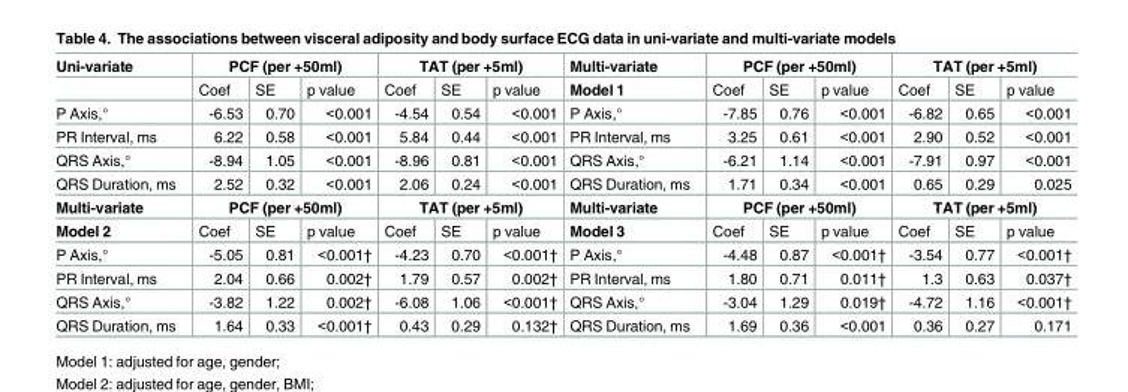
<table><tbody><tr><td rowspan="2">Uni-variate</td><td colspan="3">PCF (per +50ml)</td><td colspan="3">TAT (per +5ml)</td><td>Multi-variate</td><td colspan="3">PCF (per +50ml)</td><td colspan="3">TAT (per +5ml)</td></tr><tr><td>Coef</td><td>SE</td><td>p value</td><td>Coef</td><td>SE</td><td>p value</td><td>Model 1</td><td>Coef</td><td>SE</td><td>p value</td><td>Coef</td><td>SE</td><td>p value</td></tr><tr><td>P Axis,°</td><td>-6.53</td><td>0.70</td><td>&lt;0.001</td><td>-4.54</td><td>0.54</td><td>&lt;0.001</td><td>P Axis,°</td><td>-7.85</td><td>0.76</td><td>&lt;0.001</td><td>-6.82</td><td>0.65</td><td>&lt;0.001</td></tr><tr><td>PR Interval, ms</td><td>6.22</td><td>0.58</td><td>&lt;0.001</td><td>5.84</td><td>0.44</td><td>&lt;0.001</td><td>PR Interval, ms</td><td>3.25</td><td>0.61</td><td>&lt;0.001</td><td>2.90</td><td>0.52</td><td>&lt;0.001</td></tr><tr><td>QRS Axis,°</td><td>-8.94</td><td>1.05</td><td>&lt;0.001</td><td>-8.96</td><td>0.81</td><td>&lt;0.001</td><td>QRS Axis,°</td><td>-6.21</td><td>1.14</td><td>&lt;0.001</td><td>-7.91</td><td>0.97</td><td>&lt;0.001</td></tr><tr><td>QRS Duration, ms</td><td>2.52</td><td>0.32</td><td>&lt;0.001</td><td>2.06</td><td>0.24</td><td>&lt;0.001</td><td>QRS Duration, ms</td><td>1.71</td><td>0.34</td><td>&lt;0.001</td><td>0.65</td><td>0.29</td><td>0.025</td></tr><tr><td>Multi-variate</td><td colspan="3">PCF (per +50ml)</td><td colspan="3">TAT (per +5ml)</td><td>Multi-variate</td><td colspan="3">PCF (per +50ml)</td><td colspan="3">TAT (per +5ml)</td></tr><tr><td>Model 2</td><td>Coef</td><td>SE</td><td>p value</td><td>Coef</td><td>SE</td><td>p value</td><td>Model 3</td><td>Coef</td><td>SE</td><td>p value</td><td>Coef</td><td>SE</td><td>p value</td></tr><tr><td>P Axis,°</td><td>-5.05</td><td>0.81</td><td>&lt;0.001†</td><td>-4.23</td><td>0.70</td><td>&lt;0.001†</td><td>P Axis,°</td><td>-4.48</td><td>0.87</td><td>&lt;0.001†</td><td>-3.54</td><td>0.77</td><td>&lt;0.001†</td></tr><tr><td>PR Interval, ms</td><td>2.04</td><td>0.66</td><td>0.002†</td><td>1.79</td><td>0.57</td><td>0.002†</td><td>PR Interval, ms</td><td>1.80</td><td>0.71</td><td>0.011†</td><td>1.3</td><td>0.63</td><td>0.037†</td></tr><tr><td>QRS Axis,°</td><td>-3.82</td><td>1.22</td><td>0.002†</td><td>-6.08</td><td>1.06</td><td>&lt;0.001†</td><td>QRS Axis,°</td><td>-3.04</td><td>1.29</td><td>0.019†</td><td>-4.72</td><td>1.16</td><td>&lt;0.001†</td></tr><tr><td>QRS Duration, ms</td><td>1.64</td><td>0.33</td><td>&lt;0.001†</td><td>0.43</td><td>0.29</td><td>0.132†</td><td>QRS Duration, ms</td><td>1.69</td><td>0.36</td><td>&lt;0.001</td><td>0.36</td><td>0.27</td><td>0.171</td></tr></tbody></table>